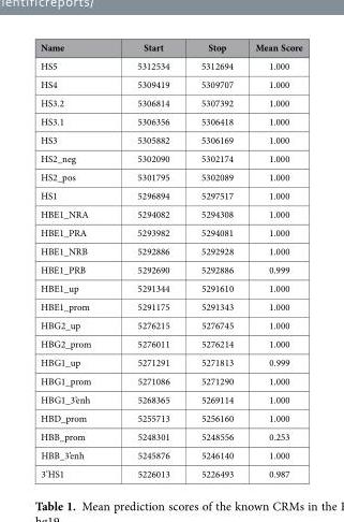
<table><thead><tr><td>Name</td><td>Start</td><td>Stop</td><td>Mean Score</td></tr></thead><tbody><tr><td>HS5</td><td>5312534</td><td>5312694</td><td>1.000</td></tr><tr><td>HS4</td><td>5309419</td><td>5309707</td><td>1.000</td></tr><tr><td>HS3.2</td><td>5306814</td><td>5307392</td><td>1.000</td></tr><tr><td>HS3.1</td><td>5306356</td><td>5306418</td><td>1.000</td></tr><tr><td>HS3</td><td>5305882</td><td>5306169</td><td>1.000</td></tr><tr><td>HS2_neg</td><td>5302090</td><td>5302174</td><td>1.000</td></tr><tr><td>HS2_pos</td><td>5301795</td><td>5302089</td><td>1.000</td></tr><tr><td>HS1</td><td>5296894</td><td>5297517</td><td>1.000</td></tr><tr><td>HBE1_NRA</td><td>5294082</td><td>5294308</td><td>1.000</td></tr><tr><td>HBE1_PRA</td><td>5293982</td><td>5294081</td><td>1.000</td></tr><tr><td>HBE1_NRB</td><td>5292886</td><td>5292928</td><td>1.000</td></tr><tr><td>HBE1_PRB</td><td>5292690</td><td>5292886</td><td>0.999</td></tr><tr><td>HBE1_up</td><td>5291344</td><td>5291610</td><td>1.000</td></tr><tr><td>HBE1_prom</td><td>5291175</td><td>5291343</td><td>1.000</td></tr><tr><td>HBG2_up</td><td>5276215</td><td>5276745</td><td>1.000</td></tr><tr><td>HBG2_prom</td><td>5276011</td><td>5276214</td><td>1.000</td></tr><tr><td>HBG1_up</td><td>5271291</td><td>5271813</td><td>0.999</td></tr><tr><td>HBG1_prom</td><td>5271086</td><td>5271290</td><td>1.000</td></tr><tr><td>HBG1_3’enh</td><td>5268365</td><td>5269114</td><td>1.000</td></tr><tr><td>HBD_prom</td><td>5255713</td><td>5256160</td><td>1.000</td></tr><tr><td>HBB_prom</td><td>5248301</td><td>5248556</td><td>0.253</td></tr><tr><td>HBB_3’enh</td><td>5245876</td><td>5246140</td><td>1.000</td></tr><tr><td>3’HS1</td><td>5226013</td><td>5226493</td><td>0.987</td></tr></tbody></table>